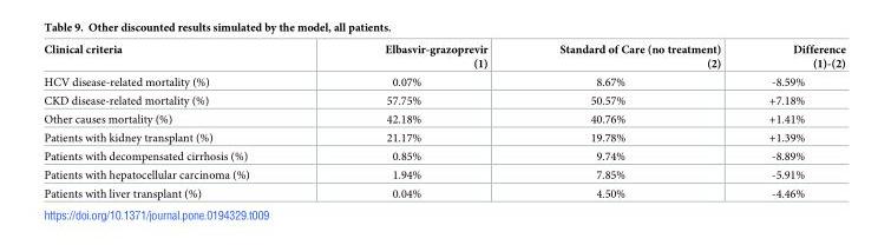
<table><thead><tr><td>Clinical criteria</td><td>Elbasvir-grazoprevir (1)</td><td>Standard of Care (no treatment) (2)</td><td>Difference (1)-(2)</td></tr></thead><tbody><tr><td>HCV disease-related mortality (%)</td><td>0.07%</td><td>8.67%</td><td>-8.59%</td></tr><tr><td>CKD disease-related mortality (%)</td><td>57.75%</td><td>50.57%</td><td>+7.18%</td></tr><tr><td>Other causes mortality (%)</td><td>42.18%</td><td>40.76%</td><td>+1.41%</td></tr><tr><td>Patients with kidney transplant (%)</td><td>21.17%</td><td>19.78%</td><td>+1.39%</td></tr><tr><td>Patients with decompensated cirrhosis (%)</td><td>0.85%</td><td>9.74%</td><td>-8.89%</td></tr><tr><td>Patients with hepatocellular carcinoma (%)</td><td>1.94%</td><td>7.85%</td><td>-5.91%</td></tr><tr><td>Patients with liver transplant (%)</td><td>0.04%</td><td>4.50%</td><td>-4.46%</td></tr></tbody></table>